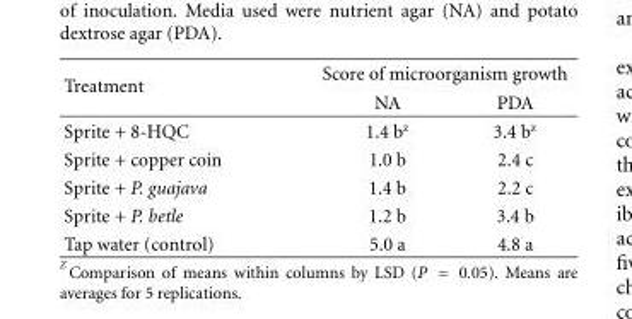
<table><thead><tr><td rowspan="2">Treatment</td><td colspan="2">Score of microorganism growth</td></tr><tr><td>NA</td><td>PDA</td></tr></thead><tbody><tr><td>Sprite + 8-HQC</td><td>1.4 b<sup>z</sup></td><td>3.4 b<sup>z</sup></td></tr><tr><td>Sprite + copper coin</td><td>1.0 b</td><td>2.4 c</td></tr><tr><td>Sprite + P. guajava</td><td>1.4 b</td><td>2.2 c</td></tr><tr><td>Sprite + P. betle</td><td>1.2 b</td><td>3.4 b</td></tr><tr><td>Tap water (control)</td><td>5.0 a</td><td>4.8 a</td></tr></tbody></table>